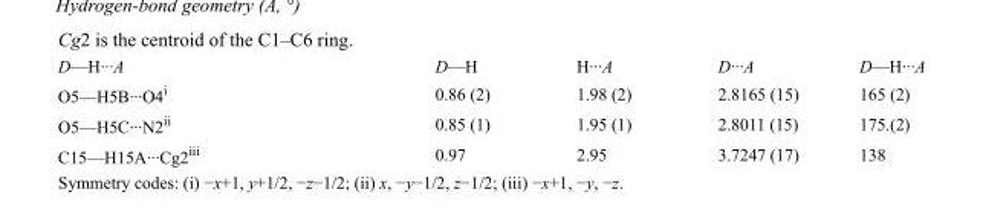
<table><tbody><tr><td>D—H···A</td><td>D—H</td><td>H···A</td><td>D···A</td><td>D—H···A</td></tr><tr><td>O5—H5B···O4<sup>i</sup></td><td>0.86 (2)</td><td>1.98 (2)</td><td>2.8165 (15)</td><td>165 (2)</td></tr><tr><td>O5—H5C···N2<sup>ii</sup></td><td>0.85 (1)</td><td>1.95 (1)</td><td>2.8011 (15)</td><td>175.(2)</td></tr><tr><td>C15—H15A···Cg2<sup>iii</sup></td><td>0.97</td><td>2.95</td><td>3.7247 (17)</td><td>138</td></tr></tbody></table>